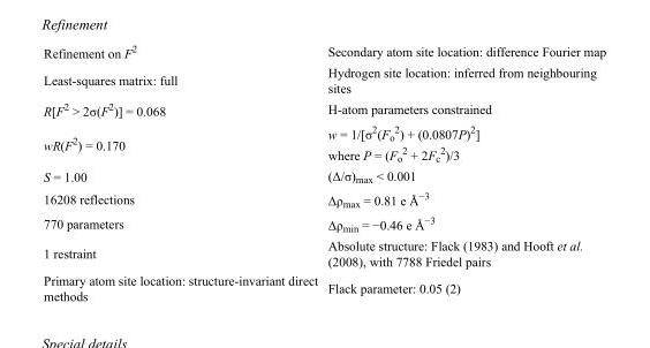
<table><tbody><tr><td>Refinement on F<sup>2</sup></td><td>Secondary atom site location: difference Fourier map</td></tr><tr><td>Least-squares matrix: full</td><td>Hydrogen site location: inferred from neighbouring sites</td></tr><tr><td>R[F<sup>2</sup> &gt; 2σ(F<sup>2</sup>)] = 0.068</td><td>H-atom parameters constrained</td></tr><tr><td>wR(F<sup>2</sup>) = 0.170</td><td>w = 1/[σ<sup>2</sup>(F<sub>o</sub> <sup>2</sup>) + (0.0807P)<sup>2</sup>] where P = (F<sub>o</sub> <sup>2</sup> + 2F<sub>c</sub> <sup>2</sup>)/3</td></tr><tr><td>S = 1.00</td><td>(Δ/σ)<sub>max</sub> &lt; 0.001</td></tr><tr><td>16208 reflections</td><td>Δρ<sub>max</sub> = 0.81 e Å<sup>−3</sup></td></tr><tr><td>770 parameters</td><td>Δρ<sub>min</sub> = −0.46 e Å<sup>−3</sup></td></tr><tr><td>1 restraint</td><td>Absolute structure: Flack (1983) and Hooft et al. (2008), with 7788 Friedel pairs</td></tr><tr><td>Primary atom site location: structure-invariant direct methods</td><td>Flack parameter: 0.05 (2)</td></tr></tbody></table>